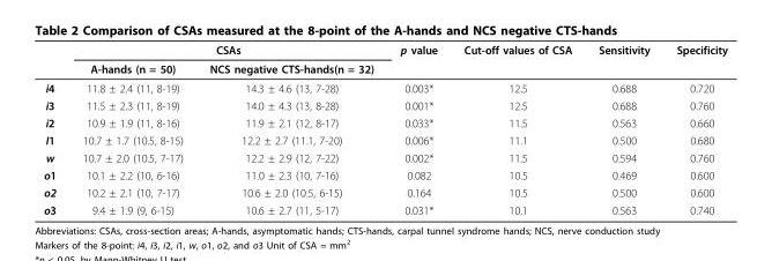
<table><thead><tr><td rowspan="2"></td><td colspan="2">CSAs</td><td rowspan="2">p value</td><td rowspan="2">Cut-off values of CSA</td><td rowspan="2">Sensitivity</td><td rowspan="2">Specificity</td></tr><tr><td>A-hands (n = 50)</td><td>NCS negative CTS-hands(n = 32)</td></tr></thead><tbody><tr><td>i4</td><td>11.8 ± 2.4 (11, 8-19)</td><td>14.3 ± 4.6 (13, 7-28)</td><td>0.003*</td><td>12.5</td><td>0.688</td><td>0.720</td></tr><tr><td>i3</td><td>11.5 ± 2.3 (11, 8-19)</td><td>14.0 ± 4.3 (13, 8-28)</td><td>0.001*</td><td>12.5</td><td>0.688</td><td>0.760</td></tr><tr><td>i2</td><td>10.9 ± 1.9 (11, 8-16)</td><td>11.9 ± 2.1 (12, 8-17)</td><td>0.033*</td><td>11.5</td><td>0.563</td><td>0.660</td></tr><tr><td>I1</td><td>10.7 ± 1.7 (10.5, 8-15)</td><td>12.2 ± 2.7 (11.1, 7-20)</td><td>0.006*</td><td>11.1</td><td>0.500</td><td>0.680</td></tr><tr><td>w</td><td>10.7 ± 2.0 (10.5, 7-17)</td><td>12.2 ± 2.9 (12, 7-22)</td><td>0.002*</td><td>11.5</td><td>0.594</td><td>0.760</td></tr><tr><td>o1</td><td>10.1 ± 2.2 (10, 6-16)</td><td>11.0 ± 2.3 (10, 7-16)</td><td>0.082</td><td>10.5</td><td>0.469</td><td>0.600</td></tr><tr><td>o2</td><td>10.2 ± 2.1 (10, 7-17)</td><td>10.6 ± 2.0 (10.5, 6-15)</td><td>0.164</td><td>10.5</td><td>0.500</td><td>0.600</td></tr><tr><td>o3</td><td>9.4 ± 1.9 (9, 6-15)</td><td>10.6 ± 2.7 (11, 5-17)</td><td>0.031*</td><td>10.1</td><td>0.563</td><td>0.740</td></tr></tbody></table>